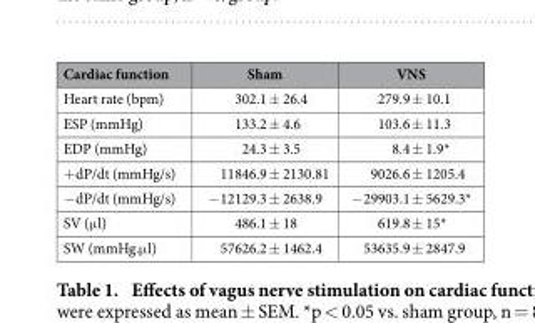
<table><thead><tr><td>Cardiac function</td><td>Sham</td><td>VNS</td></tr></thead><tbody><tr><td>Heart rate (bpm)</td><td>302.1 ± 26.4</td><td>279.9 ± 10.1</td></tr><tr><td>ESP (mmHg)</td><td>133.2 ± 4.6</td><td>103.6 ± 11.3</td></tr><tr><td>EDP (mmHg)</td><td>24.3 ± 3.5</td><td>8.4 ± 1.9*</td></tr><tr><td>+ dP/dt (mmHg/s)</td><td>11846.9 ± 2130.81</td><td>9026.6 ± 1205.4</td></tr><tr><td>− dP/dt (mmHg/s)</td><td>− 12129.3 ± 2638.9</td><td>− 29903.1 ± 5629.3*</td></tr><tr><td>SV (μ l)</td><td>486.1 ± 18</td><td>619.8 ± 15*</td></tr><tr><td>SW (mmHg.μ l)</td><td>57626.2 ± 1462.4</td><td>53635.9 ± 2847.9</td></tr></tbody></table>